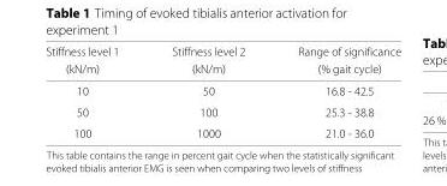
<table><thead><tr><td rowspan="2">Stiffness level 1 (kN/m)</td><td rowspan="2">Stiffness level 2 (kN/m)</td><td rowspan="2">Range of significance (% gait cycle)</td></tr><tr></tr></thead><tbody><tr><td>10</td><td>50</td><td>16.8 - 42.5</td></tr><tr><td>50</td><td>100</td><td>25.3 - 38.8</td></tr><tr><td>100</td><td>1000</td><td>21.0 - 36.0</td></tr></tbody></table>